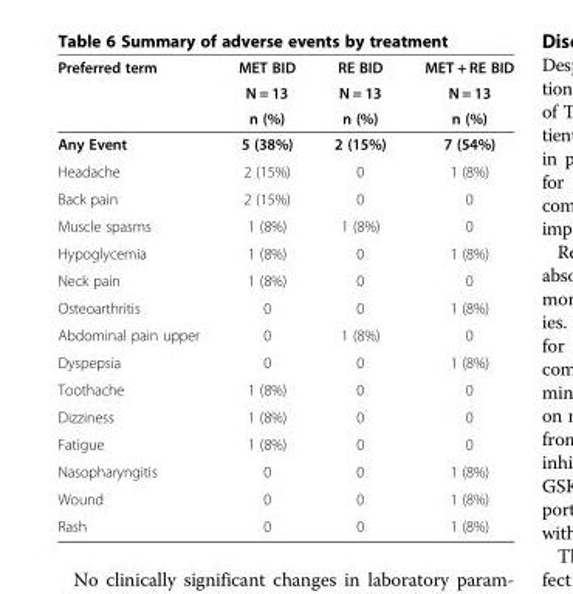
<table><thead><tr><td rowspan="3">Preferred term</td><td rowspan="3">MET BID N = 13 n (%)</td><td rowspan="3">RE BID N = 13 n (%)</td><td rowspan="3">MET + RE BID N = 13 n (%)</td></tr><tr></tr><tr></tr></thead><tbody><tr><td>Any Event</td><td>5 (38%)</td><td>2 (15%)</td><td>7 (54%)</td></tr><tr><td>Headache</td><td>2 (15%)</td><td>0</td><td>1 (8%)</td></tr><tr><td>Back pain</td><td>2 (15%)</td><td>0</td><td>0</td></tr><tr><td>Muscle spasms</td><td>1 (8%)</td><td>1 (8%)</td><td>0</td></tr><tr><td>Hypoglycemia</td><td>1 (8%)</td><td>0</td><td>1 (8%)</td></tr><tr><td>Neck pain</td><td>1 (8%)</td><td>0</td><td>0</td></tr><tr><td>Osteoarthritis</td><td>0</td><td>0</td><td>1 (8%)</td></tr><tr><td>Abdominal pain upper</td><td>0</td><td>1 (8%)</td><td>0</td></tr><tr><td>Dyspepsia</td><td>0</td><td>0</td><td>1 (8%)</td></tr><tr><td>Toothache</td><td>1 (8%)</td><td>0</td><td>0</td></tr><tr><td>Dizziness</td><td>1 (8%)</td><td>0</td><td>0</td></tr><tr><td>Fatigue</td><td>1 (8%)</td><td>0</td><td>0</td></tr><tr><td>Nasopharyngitis</td><td>0</td><td>0</td><td>1 (8%)</td></tr><tr><td>Wound</td><td>0</td><td>0</td><td>1 (8%)</td></tr><tr><td>Rash</td><td>0</td><td>0</td><td>1 (8%)</td></tr></tbody></table>